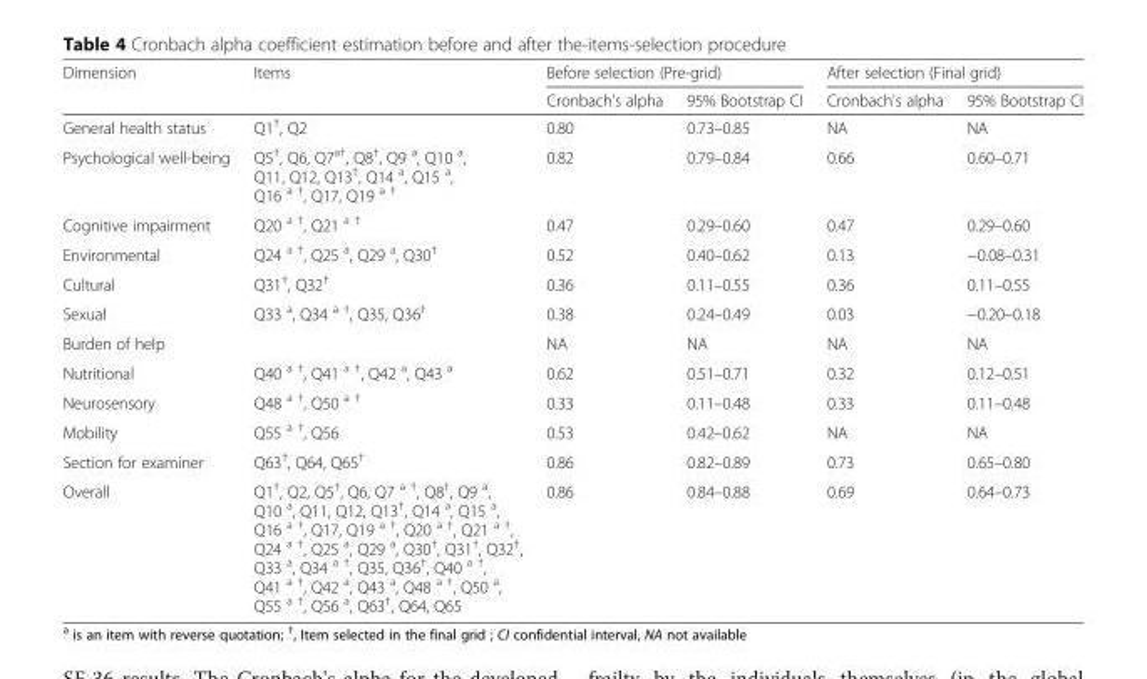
<table><thead><tr><td rowspan="2">Dimension</td><td rowspan="2">Items</td><td colspan="2">Before selection (Pre-grid)</td><td colspan="2">After selection (Final grid)</td></tr><tr><td>Cronbach&#x27;s alpha</td><td>95% Bootstrap CI</td><td>Cronbach&#x27;s alpha</td><td>95% Bootstrap CI</td></tr></thead><tbody><tr><td>General health status</td><td>Q1<sup>†</sup>, Q2</td><td>0.80</td><td>0.73–0.85</td><td>NA</td><td>NA</td></tr><tr><td>Psychological well-being</td><td>Q5<sup>†</sup>, Q6, Q7<sup>a†</sup>, Q8<sup>†</sup>, Q9 <sup>a</sup>, Q10 <sup>a</sup>, Q11, Q12, Q13<sup>†</sup>, Q14 <sup>a</sup>, Q15 <sup>a</sup>, Q16 <sup>a †</sup>, Q17, Q19 <sup>a †</sup></td><td>0.82</td><td>0.79–0.84</td><td>0.66</td><td>0.60–0.71</td></tr><tr><td>Cognitive impairment</td><td>Q20 <sup>a †</sup>, Q21 <sup>a †</sup></td><td>0.47</td><td>0.29–0.60</td><td>0.47</td><td>0.29–0.60</td></tr><tr><td>Environmental</td><td>Q24 <sup>a †</sup>, Q25 <sup>a</sup>, Q29 <sup>a</sup>, Q30<sup>†</sup></td><td>0.52</td><td>0.40–0.62</td><td>0.13</td><td>−0.08–0.31</td></tr><tr><td>Cultural</td><td>Q31<sup>†</sup>, Q32<sup>†</sup></td><td>0.36</td><td>0.11–0.55</td><td>0.36</td><td>0.11–0.55</td></tr><tr><td>Sexual</td><td>Q33 <sup>a</sup>, Q34 <sup>a †</sup>, Q35, Q36<sup>†</sup></td><td>0.38</td><td>0.24–0.49</td><td>0.03</td><td>−0.20–0.18</td></tr><tr><td>Burden of help</td><td></td><td>NA</td><td>NA</td><td>NA</td><td>NA</td></tr><tr><td>Nutritional</td><td>Q40 <sup>a †</sup>, Q41 <sup>a †</sup>, Q42 <sup>a</sup>, Q43 <sup>a</sup></td><td>0.62</td><td>0.51–0.71</td><td>0.32</td><td>0.12–0.51</td></tr><tr><td>Neurosensory</td><td>Q48 <sup>a †</sup>, Q50 <sup>a †</sup></td><td>0.33</td><td>0.11–0.48</td><td>0.33</td><td>0.11–0.48</td></tr><tr><td>Mobility</td><td>Q55 <sup>a †</sup>, Q56</td><td>0.53</td><td>0.42–0.62</td><td>NA</td><td>NA</td></tr><tr><td>Section for examiner</td><td>Q63<sup>†</sup>, Q64, Q65<sup>†</sup></td><td>0.86</td><td>0.82–0.89</td><td>0.73</td><td>0.65–0.80</td></tr><tr><td>Overall</td><td>Q1†, Q2, Q5†, Q6, Q7 a †, Q8†, Q9 a, Q10 a, Q11, Q12, Q13†, Q14 a, Q15 a, Q16 a †, Q17, Q19 a †, Q20 a †, Q21 a †, Q24 a †, Q25 a, Q29 a, Q30†, Q31†, Q32†, Q33 a, Q34 a †, Q35, Q36†, Q40 a †, Q41 a †, Q42 a, Q43 a, Q48 a †, Q50 a, Q55 a †, Q56 a, Q63†, Q64, Q65</td><td>0.86</td><td>0.84–0.88</td><td>0.69</td><td>0.64–0.73</td></tr></tbody></table>